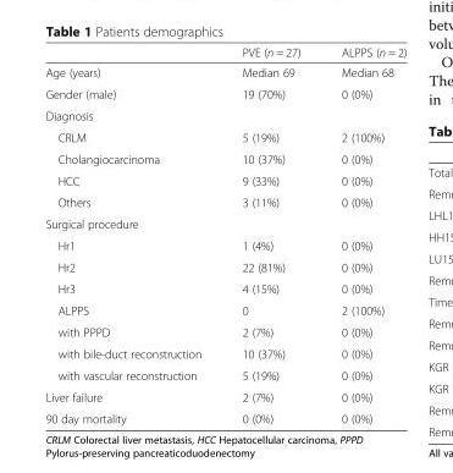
<table><thead><tr><td></td><td>PVE (n = 27)</td><td>ALPPS (n = 2)</td></tr></thead><tbody><tr><td>Age (years)</td><td>Median 69</td><td>Median 68</td></tr><tr><td>Gender (male)</td><td>19 (70%)</td><td>0 (0%)</td></tr><tr><td colspan="3">Diagnosis</td></tr><tr><td>CRLM</td><td>5 (19%)</td><td>2 (100%)</td></tr><tr><td>Cholangiocarcinoma</td><td>10 (37%)</td><td>0 (0%)</td></tr><tr><td>HCC</td><td>9 (33%)</td><td>0 (0%)</td></tr><tr><td>Others</td><td>3 (11%)</td><td>0 (0%)</td></tr><tr><td colspan="3">Surgical procedure</td></tr><tr><td>Hr1</td><td>1 (4%)</td><td>0 (0%)</td></tr><tr><td>Hr2</td><td>22 (81%)</td><td>0 (0%)</td></tr><tr><td>Hr3</td><td>4 (15%)</td><td>0 (0%)</td></tr><tr><td>ALPPS</td><td>0</td><td>2 (100%)</td></tr><tr><td>with PPPD</td><td>2 (7%)</td><td>0 (0%)</td></tr><tr><td>with bile-duct reconstruction</td><td>10 (37%)</td><td>0 (0%)</td></tr><tr><td>with vascular reconstruction</td><td>5 (19%)</td><td>0 (0%)</td></tr><tr><td>Liver failure</td><td>2 (7%)</td><td>0 (0%)</td></tr><tr><td>90 day mortality</td><td>0 (0%)</td><td>0 (0%)</td></tr></tbody></table>